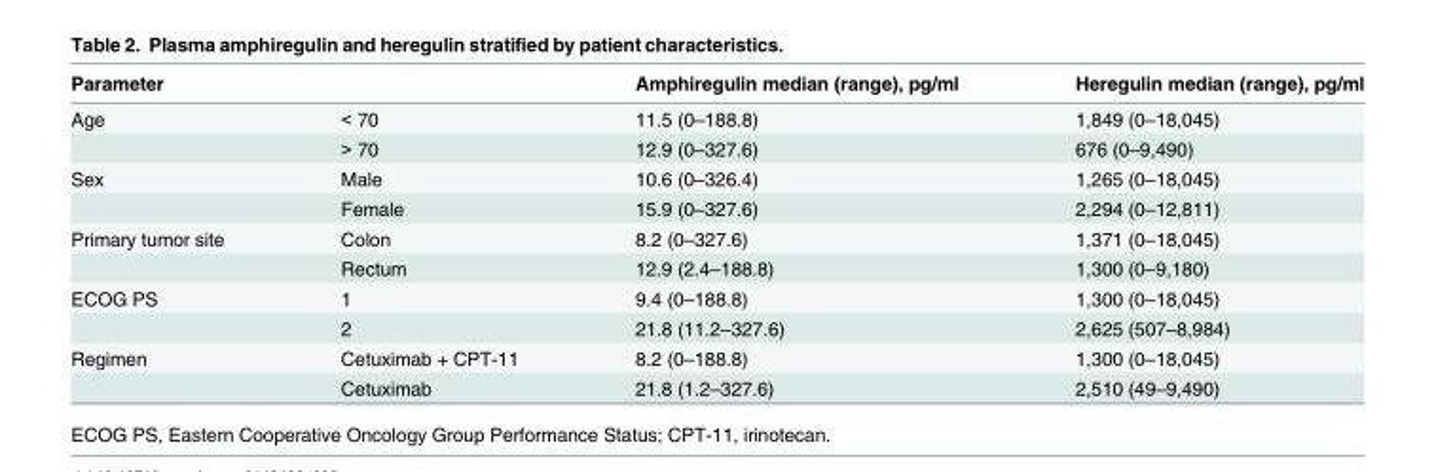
<table><thead><tr><td colspan="2">Parameter</td><td rowspan="2">Amphiregulin median (range), pg/ml 11.5 (0–188.8)</td><td rowspan="2">Heregulin median (range), pg/ml 1,849 (0–18,045)</td></tr><tr><td>Age</td><td>&lt; 70</td></tr></thead><tbody><tr><td></td><td>&gt; 70</td><td>12.9 (0–327.6)</td><td>676 (0–9,490)</td></tr><tr><td rowspan="2">Sex</td><td>Male</td><td>10.6 (0–326.4)</td><td>1,265 (0–18,045)</td></tr><tr><td>Female</td><td>15.9 (0–327.6)</td><td>2,294 (0–12,811)</td></tr><tr><td rowspan="2">Primary tumor site</td><td>Colon</td><td>8.2 (0–327.6)</td><td>1,371 (0–18,045)</td></tr><tr><td>Rectum</td><td>12.9 (2.4–188.8)</td><td>1,300 (0–9,180)</td></tr><tr><td rowspan="2">ECOG PS</td><td>1</td><td>9.4 (0–188.8)</td><td>1,300 (0–18,045)</td></tr><tr><td>2</td><td>21.8 (11.2–327.6)</td><td>2,625 (507–8,984)</td></tr><tr><td rowspan="2">Regimen</td><td>Cetuximab + CPT-11</td><td>8.2 (0–188.8)</td><td>1,300 (0–18,045)</td></tr><tr><td>Cetuximab</td><td>21.8 (1.2–327.6)</td><td>2,510 (49–9,490)</td></tr></tbody></table>